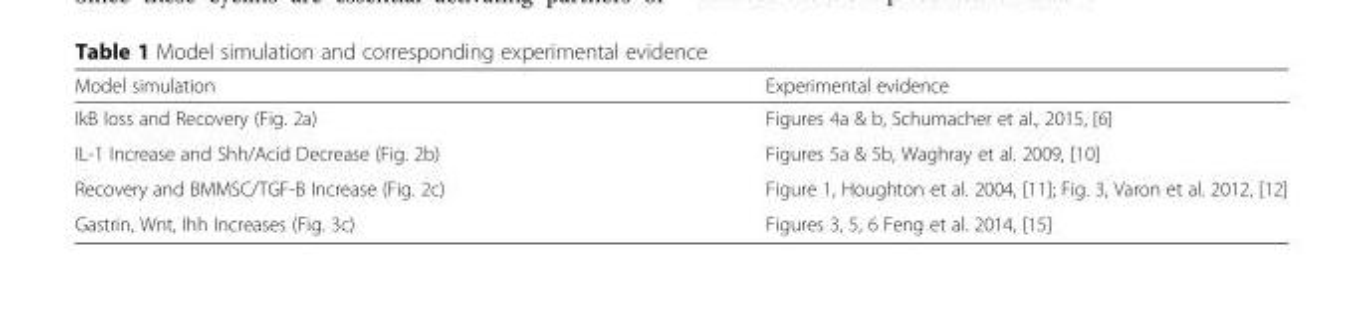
<table><thead><tr><td>Model simulation</td><td>Experimental evidence</td></tr></thead><tbody><tr><td>IkB loss and Recovery (Fig. 2a)</td><td>Figures 4a &amp; b, Schumacher et al., 2015, [6]</td></tr><tr><td>IL-1 Increase and Shh/Acid Decrease (Fig. 2b)</td><td>Figures 5a &amp; 5b, Waghray et al. 2009, [10]</td></tr><tr><td>Recovery and BMMSC/TGF-B Increase (Fig. 2c)</td><td>Figure 1, Houghton et al. 2004, [11]; Fig. 3, Varon et al. 2012, [12]</td></tr><tr><td>Gastrin, Wnt, Ihh Increases (Fig. 3c)</td><td>Figures 3, 5, 6 Feng et al. 2014, [15]</td></tr></tbody></table>